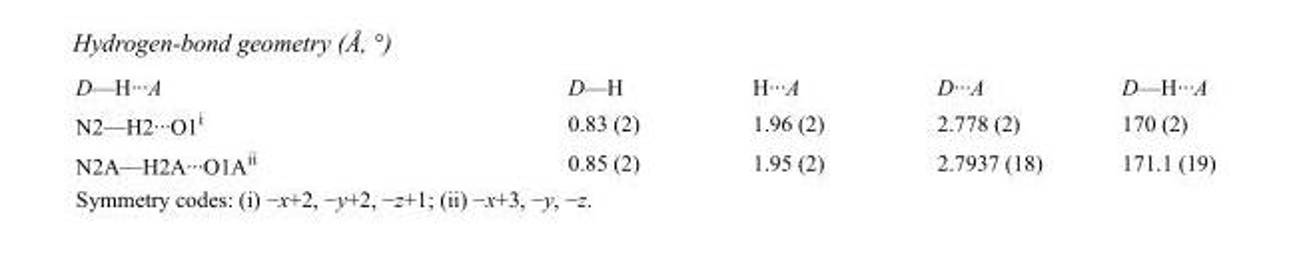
<table><tbody><tr><td>D—H···A</td><td>D—H</td><td>H···A</td><td>D···A</td><td>D—H···A</td></tr><tr><td>N2—H2···O1<sup>i</sup></td><td>0.83 (2)</td><td>1.96 (2)</td><td>2.778 (2)</td><td>170 (2)</td></tr><tr><td>N2A—H2A···O1A<sup>ii</sup></td><td>0.85 (2)</td><td>1.95 (2)</td><td>2.7937 (18)</td><td>171.1 (19)</td></tr></tbody></table>